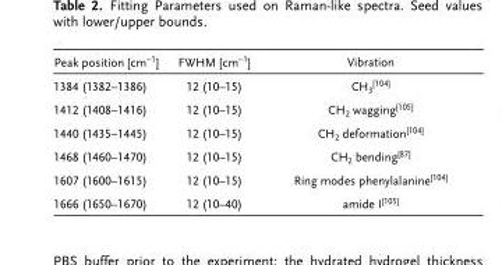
<table><thead><tr><td>Peak position [cm<sup>−1</sup>]</td><td>FWHM [cm<sup>−1</sup>]</td><td>Vibration</td></tr></thead><tbody><tr><td>1384 (1382–1386)</td><td>12 (10–15)</td><td>CH3[104]</td></tr><tr><td>1412 (1408–1416)</td><td>12 (10–15)</td><td>CH2 wagging[105]</td></tr><tr><td>1440 (1435–1445)</td><td>12 (10–15)</td><td>CH2 deformation[104]</td></tr><tr><td>1468 (1460–1470)</td><td>12 (10–15)</td><td>CH2 bending[87]</td></tr><tr><td>1607 (1600–1615)</td><td>12 (10–15)</td><td>Ring modes phenylalanine[104]</td></tr><tr><td>1666 (1650–1670)</td><td>12 (10–40)</td><td>amide I[105]</td></tr></tbody></table>